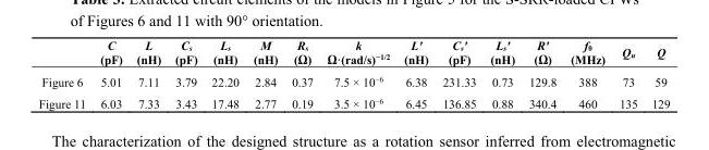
<table><thead><tr><td></td><td>C (pF)</td><td>L (nH)</td><td>C<sub>s</sub> (pF)</td><td>L<sub>s</sub> (nH)</td><td>M (nH)</td><td>R<sub>s</sub> (Ω)</td><td>k Ω·(rad/s)<sup>−1/2</sup></td><td>L&#x27; (nH)</td><td>C<sub>s</sub>&#x27; (pF)</td><td>L<sub>s</sub>&#x27; (nH)</td><td>R&#x27; (Ω)</td><td>f<sub>0</sub> (MHz)</td><td>Q<sub>u</sub></td><td>Q</td></tr></thead><tbody><tr><td>Figure 6</td><td>5.01</td><td>7.11</td><td>3.79</td><td>22.20</td><td>2.84</td><td>0.37</td><td>7.5 × 10<sup>−6</sup></td><td>6.38</td><td>231.33</td><td>0.73</td><td>129.8</td><td>388</td><td>73</td><td>59</td></tr><tr><td>Figure 11</td><td>6.03</td><td>7.33</td><td>3.43</td><td>17.48</td><td>2.77</td><td>0.19</td><td>3.5 × 10<sup>−6</sup></td><td>6.45</td><td>136.85</td><td>0.88</td><td>340.4</td><td>460</td><td>135</td><td>129</td></tr></tbody></table>